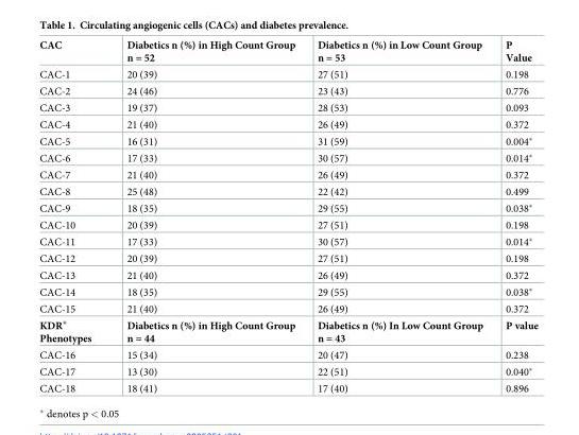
<table><tbody><tr><td>CAC</td><td>Diabetics n (%) in High Count Group n = 52</td><td>Diabetics n (%) in Low Count Group n = 53</td><td>P Value</td></tr><tr><td>CAC-1</td><td>20 (39)</td><td>27 (51)</td><td>0.198</td></tr><tr><td>CAC-2</td><td>24 (46)</td><td>23 (43)</td><td>0.776</td></tr><tr><td>CAC-3</td><td>19 (37)</td><td>28 (53)</td><td>0.093</td></tr><tr><td>CAC-4</td><td>21 (40)</td><td>26 (49)</td><td>0.372</td></tr><tr><td>CAC-5</td><td>16 (31)</td><td>31 (59)</td><td>0.004*</td></tr><tr><td>CAC-6</td><td>17 (33)</td><td>30 (57)</td><td>0.014*</td></tr><tr><td>CAC-7</td><td>21 (40)</td><td>26 (49)</td><td>0.372</td></tr><tr><td>CAC-8</td><td>25 (48)</td><td>22 (42)</td><td>0.499</td></tr><tr><td>CAC-9</td><td>18 (35)</td><td>29 (55)</td><td>0.038*</td></tr><tr><td>CAC-10</td><td>20 (39)</td><td>27 (51)</td><td>0.198</td></tr><tr><td>CAC-11</td><td>17 (33)</td><td>30 (57)</td><td>0.014*</td></tr><tr><td>CAC-12</td><td>20 (39)</td><td>27 (51)</td><td>0.198</td></tr><tr><td>CAC-13</td><td>21 (40)</td><td>26 (49)</td><td>0.372</td></tr><tr><td>CAC-14</td><td>18 (35)</td><td>29 (55)</td><td>0.038*</td></tr><tr><td>CAC-15</td><td>21 (40)</td><td>26 (49)</td><td>0.372</td></tr><tr><td>KDR<sup>+</sup> Phenotypes</td><td>Diabetics n (%) in High Count Group n = 44</td><td>Diabetics n (%) In Low Count Group n = 43</td><td>P value</td></tr><tr><td>CAC-16</td><td>15 (34)</td><td>20 (47)</td><td>0.238</td></tr><tr><td>CAC-17</td><td>13 (30)</td><td>22 (51)</td><td>0.040*</td></tr><tr><td>CAC-18</td><td>18 (41)</td><td>17 (40)</td><td>0.896</td></tr></tbody></table>